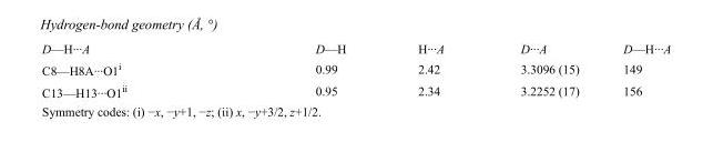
<table><tbody><tr><td>D—H···A</td><td>D—H</td><td>H···A</td><td>D···A</td><td>D—H···A</td></tr><tr><td>C8—H8A···O1<sup>i</sup></td><td>0.99</td><td>2.42</td><td>3.3096 (15)</td><td>149</td></tr><tr><td>C13—H13···O1<sup>ii</sup></td><td>0.95</td><td>2.34</td><td>3.2252 (17)</td><td>156</td></tr></tbody></table>